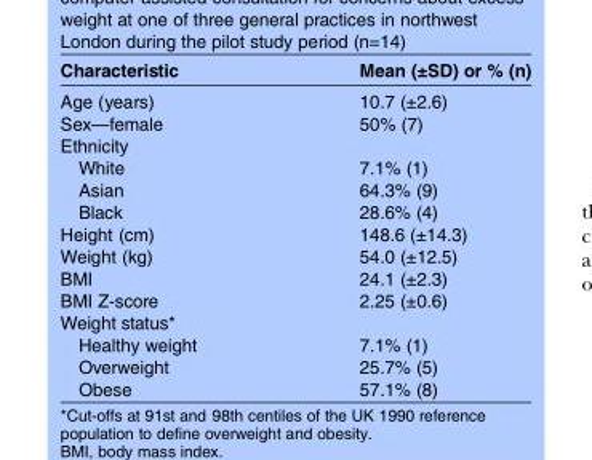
<table><thead><tr><td>Characteristic</td><td>Mean (±SD) or % (n)</td></tr></thead><tbody><tr><td>Age (years)</td><td>10.7 (±2.6)</td></tr><tr><td>Sex—female</td><td>50% (7)</td></tr><tr><td colspan="2">Ethnicity</td></tr><tr><td>White</td><td>7.1% (1)</td></tr><tr><td>Asian</td><td>64.3% (9)</td></tr><tr><td>Black</td><td>28.6% (4)</td></tr><tr><td>Height (cm)</td><td>148.6 (±14.3)</td></tr><tr><td>Weight (kg)</td><td>54.0 (±12.5)</td></tr><tr><td>BMI</td><td>24.1 (±2.3)</td></tr><tr><td>BMI Z-score</td><td>2.25 (±0.6)</td></tr><tr><td colspan="2">Weight status*</td></tr><tr><td>Healthy weight</td><td>7.1% (1)</td></tr><tr><td>Overweight</td><td>25.7% (5)</td></tr><tr><td>Obese</td><td>57.1% (8)</td></tr></tbody></table>